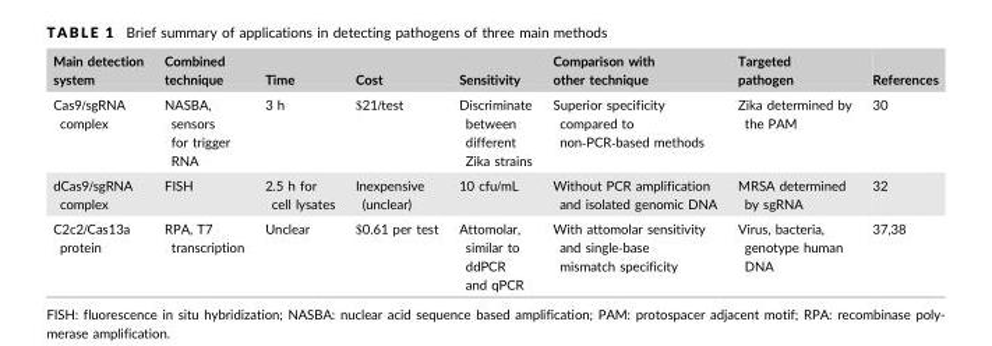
<table><thead><tr><td>Main detection system</td><td>Combined technique</td><td>Time</td><td>Cost</td><td>Sensitivity</td><td>Comparison with other technique</td><td>Targeted pathogen</td><td>References</td></tr></thead><tbody><tr><td>Cas9/sgRNA complex</td><td>NASBA, sensors for trigger RNA</td><td>3 h</td><td>$21/test</td><td>Discriminate between different Zika strains</td><td>Superior specificity compared to non‐PCR‐based methods</td><td>Zika determined by the PAM</td><td>30</td></tr><tr><td>dCas9/sgRNA complex</td><td>FISH</td><td>2.5 h for cell lysates</td><td>Inexpensive (unclear)</td><td>10 cfu/mL</td><td>Without PCR amplification and isolated genomic DNA</td><td>MRSA determined by sgRNA</td><td>32</td></tr><tr><td>C2c2/Cas13a protein</td><td>RPA, T7 transcription</td><td>Unclear</td><td>$0.61 per test</td><td>Attomolar, similar to ddPCR and qPCR</td><td>With attomolar sensitivity and single‐base mismatch specificity</td><td>Virus, bacteria, genotype human DNA</td><td>37,38</td></tr></tbody></table>